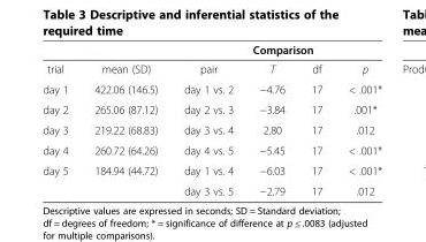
<table><thead><tr><td rowspan="2">trial</td><td rowspan="2">mean (SD)</td><td colspan="4">Comparison</td></tr><tr><td>pair</td><td>T</td><td>df</td><td>p</td></tr></thead><tbody><tr><td>day 1</td><td>422.06 (146.5)</td><td>day 1 vs. 2</td><td>−4.76</td><td>17</td><td>&lt; .001*</td></tr><tr><td>day 2</td><td>265.06 (87.12)</td><td>day 2 vs. 3</td><td>−3.84</td><td>17</td><td>.001*</td></tr><tr><td>day 3</td><td>219.22 (68.83)</td><td>day 3 vs. 4</td><td>2.80</td><td>17</td><td>.012</td></tr><tr><td>day 4</td><td>260.72 (64.26)</td><td>day 4 vs. 5</td><td>−5.45</td><td>17</td><td>&lt; .001*</td></tr><tr><td rowspan="2">day 5</td><td>184.94 (44.72)</td><td>day 1 vs. 4</td><td>−6.03</td><td>17</td><td>&lt; .001*</td></tr><tr><td></td><td>day 3 vs. 5</td><td>−2.79</td><td>17</td><td>.012</td></tr></tbody></table>